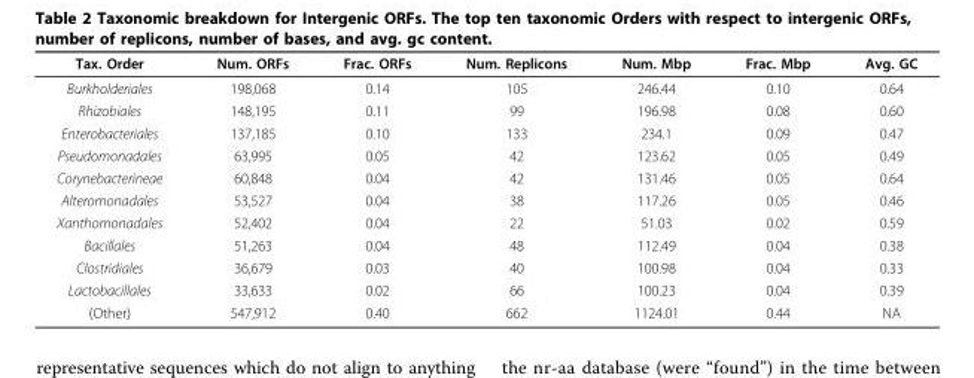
<table><thead><tr><td>Tax. Order</td><td>Num. ORFs</td><td>Frac. ORFs</td><td>Num. Replicons</td><td>Num. Mbp</td><td>Frac. Mbp</td><td>Avg. GC</td></tr></thead><tbody><tr><td>Burkholderiales</td><td>198,068</td><td>0.14</td><td>105</td><td>246.44</td><td>0.10</td><td>0.64</td></tr><tr><td>Rhizobiales</td><td>148,195</td><td>0.11</td><td>99</td><td>196.98</td><td>0.08</td><td>0.60</td></tr><tr><td>Enterobacteriales</td><td>137,185</td><td>0.10</td><td>133</td><td>234.1</td><td>0.09</td><td>0.47</td></tr><tr><td>Pseudomonadales</td><td>63,995</td><td>0.05</td><td>42</td><td>123.62</td><td>0.05</td><td>0.49</td></tr><tr><td>Corynebacterineae</td><td>60,848</td><td>0.04</td><td>42</td><td>131.46</td><td>0.05</td><td>0.64</td></tr><tr><td>Alteromonadales</td><td>53,527</td><td>0.04</td><td>38</td><td>117.26</td><td>0.05</td><td>0.46</td></tr><tr><td>Xanthomonadales</td><td>52,402</td><td>0.04</td><td>22</td><td>51.03</td><td>0.02</td><td>0.59</td></tr><tr><td>Bacillales</td><td>51,263</td><td>0.04</td><td>48</td><td>112.49</td><td>0.04</td><td>0.38</td></tr><tr><td>Clostridiales</td><td>36,679</td><td>0.03</td><td>40</td><td>100.98</td><td>0.04</td><td>0.33</td></tr><tr><td>Lactobacillales</td><td>33,633</td><td>0.02</td><td>66</td><td>100.23</td><td>0.04</td><td>0.39</td></tr><tr><td>(Other)</td><td>547,912</td><td>0.40</td><td>662</td><td>1124.01</td><td>0.44</td><td>NA</td></tr></tbody></table>